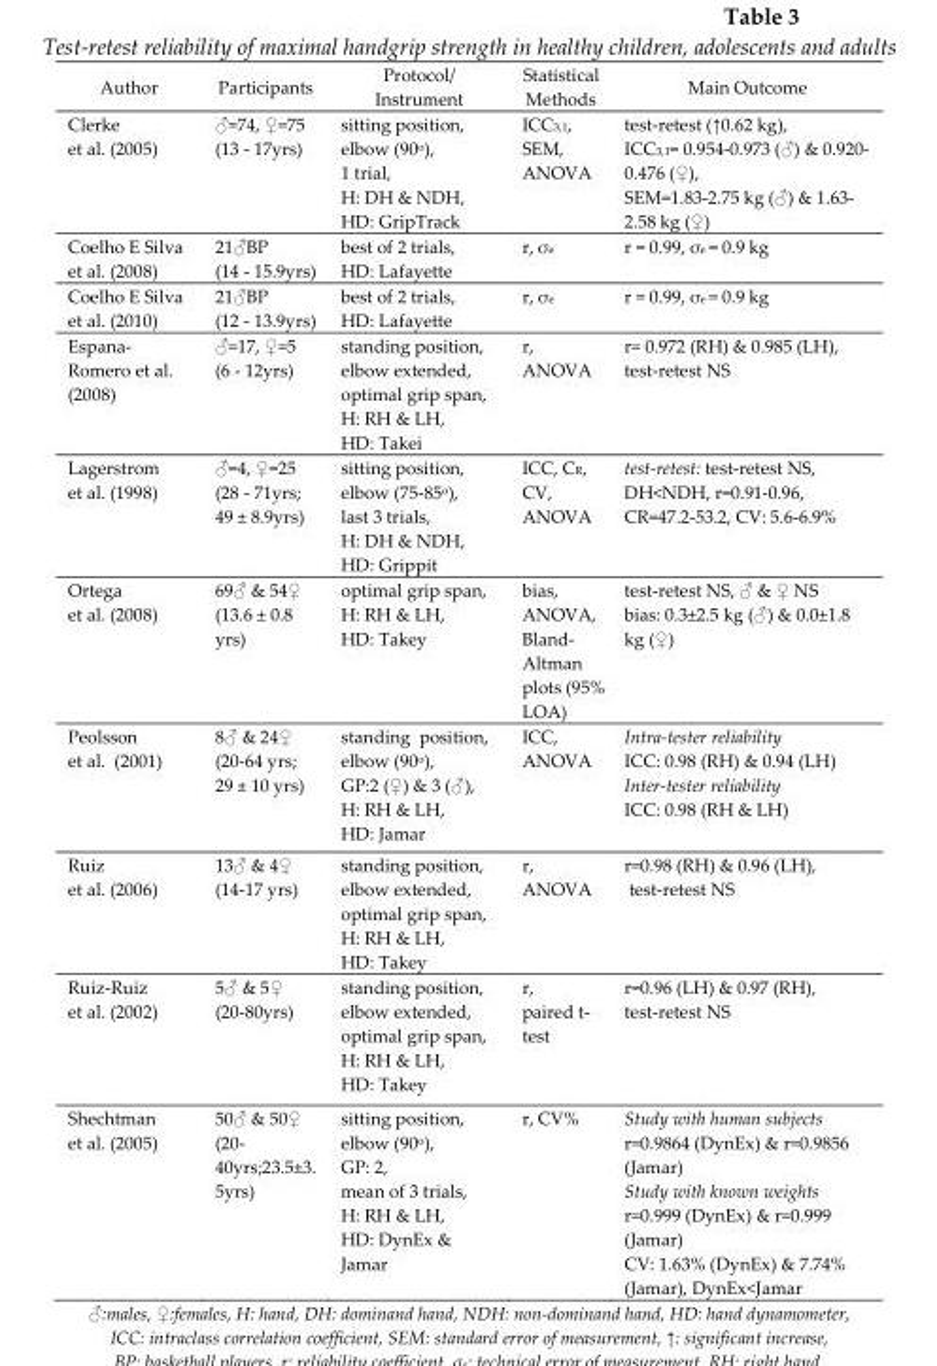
<table><thead><tr><td>Author</td><td>Participants</td><td>Protocol/ Instrument</td><td>Statistical Methods</td><td>Main Outcome</td></tr></thead><tbody><tr><td>Clerke et al. (2005)</td><td>♂=74, ♀=75 (13 - 17yrs)</td><td>sitting position, elbow (90°), 1 trial, H: DH &amp; NDH, HD: GripTrack</td><td>ICC<sub>3,1</sub>, SEM, ANOVA</td><td>test-retest (↑0.62 kg), ICC<sub>3,1</sub>= 0.954-0.973 (♂) &amp; 0.920- 0.476 (♀), SEM=1.83-2.75 kg (♂) &amp; 1.63- 2.58 kg (♀)</td></tr><tr><td>Coelho E Silva et al. (2008)</td><td>21♂BP (14 - 15.9yrs)</td><td>best of 2 trials, HD: Lafayette</td><td>r, σ<sub>e</sub></td><td>r = 0.99, σ<sub>e</sub> = 0.9 kg</td></tr><tr><td>Coelho E Silva et al. (2010)</td><td>21♂BP (12 - 13.9yrs)</td><td>best of 2 trials, HD: Lafayette</td><td>r, σ<sub>e</sub></td><td>r = 0.99, σ<sub>e</sub> = 0.9 kg</td></tr><tr><td>Espana- Romero et al. (2008)</td><td>♂=17, ♀=5 (6 - 12yrs)</td><td>standing position, elbow extended, optimal grip span, H: RH &amp; LH, HD: Takei</td><td>r, ANOVA</td><td>r= 0.972 (RH) &amp; 0.985 (LH), test-retest NS</td></tr><tr><td>Lagerstrom et al. (1998)</td><td>♂=4, ♀=25 (28 - 71yrs; 49 ± 8.9yrs)</td><td>sitting position, elbow (75-85°), last 3 trials, H: DH &amp; NDH, HD: Grippit</td><td>ICC, C<sub>R</sub>, CV, ANOVA</td><td>test-retest: test-retest NS, DH&lt;NDH, r=0.91-0.96, CR=47.2-53.2, CV: 5.6-6.9%</td></tr><tr><td>Ortega et al. (2008)</td><td>69♂ &amp; 54♀ (13.6 ± 0.8 yrs)</td><td>optimal grip span, H: RH &amp; LH, HD: Takey</td><td>bias, ANOVA, Bland- Altman plots (95% LOA)</td><td>test-retest NS, ♂ &amp; ♀ NS bias: 0.3±2.5 kg (♂) &amp; 0.0±1.8 kg (♀)</td></tr><tr><td>Peolsson et al. (2001)</td><td>8♂ &amp; 24♀ (20-64 yrs; 29 ± 10 yrs)</td><td>standing position, elbow (90°), GP:2 (♀) &amp; 3 (♂), H: RH &amp; LH, HD: Jamar</td><td>ICC, ANOVA</td><td>Intra-tester reliability ICC: 0.98 (RH) &amp; 0.94 (LH) Inter-tester reliability ICC: 0.98 (RH &amp; LH)</td></tr><tr><td>Ruiz et al. (2006)</td><td>13♂ &amp; 4♀ (14-17 yrs)</td><td>standing position, elbow extended, optimal grip span, H: RH &amp; LH, HD: Takey</td><td>r, ANOVA</td><td>r=0.98 (RH) &amp; 0.96 (LH), test-retest NS</td></tr><tr><td>Ruiz-Ruiz et al. (2002)</td><td>5♂ &amp; 5♀ (20-80yrs)</td><td>standing position, elbow extended, optimal grip span, H: RH &amp; LH, HD: Takey</td><td>r, paired t- test</td><td>r=0.96 (LH) &amp; 0.97 (RH), test-retest NS</td></tr><tr><td>Shechtman et al. (2005)</td><td>50♂ &amp; 50♀ (20- 40yrs;23.5±3. 5yrs)</td><td>sitting position, elbow (90°), GP: 2, mean of 3 trials, H: RH &amp; LH, HD: DynEx &amp; Jamar</td><td>r, CV%</td><td>Study with human subjects r=0.9864 (DynEx) &amp; r=0.9856 (Jamar) Study with known weights r=0.999 (DynEx) &amp; r=0.999 (Jamar) CV: 1.63% (DynEx) &amp; 7.74% (Jamar), DynEx&lt;Jamar</td></tr></tbody></table>